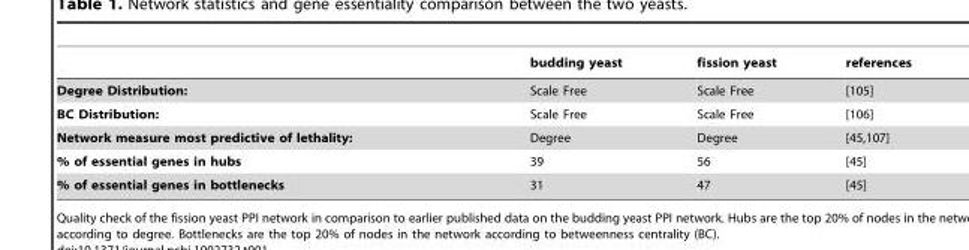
<table><thead><tr><td></td><td>budding yeast</td><td>fission yeast</td><td>references</td></tr></thead><tbody><tr><td>Degree Distribution:</td><td>Scale Free</td><td>Scale Free</td><td>[105]</td></tr><tr><td>BC Distribution:</td><td>Scale Free</td><td>Scale Free</td><td>[106]</td></tr><tr><td>Network measure most predictive of lethality:</td><td>Degree</td><td>Degree</td><td>[45,107]</td></tr><tr><td>% of essential genes in hubs</td><td>39</td><td>56</td><td>[45]</td></tr><tr><td>% of essential genes in bottlenecks</td><td>31</td><td>47</td><td>[45]</td></tr></tbody></table>